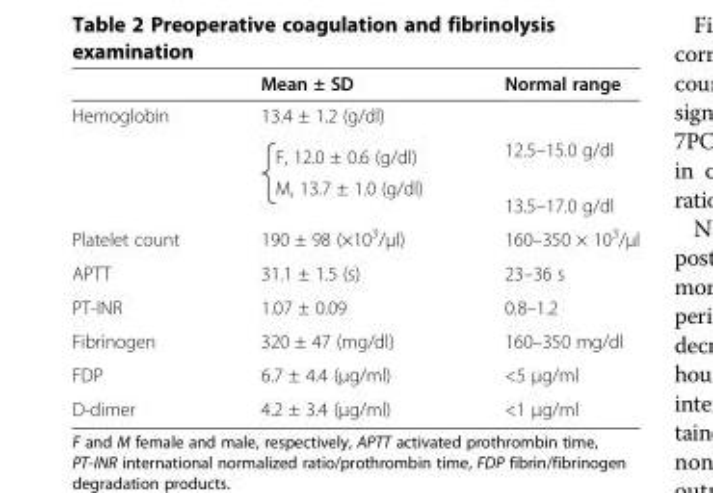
<table><thead><tr><td></td><td>Mean ± SD</td><td>Normal range</td></tr></thead><tbody><tr><td rowspan="3">Hemoglobin</td><td>13.4 ± 1.2 (g/dl)</td><td></td></tr><tr><td>F, 12.0 ± 0.6 (g/dl)</td><td>12.5–15.0 g/dl</td></tr><tr><td>M, 13.7 ± 1.0 (g/dl)</td><td>13.5–17.0 g/dl</td></tr><tr><td>Platelet count</td><td>190 ± 98 (×10<sup>3</sup>/μl)</td><td>160–350 × 10<sup>3</sup>/μl</td></tr><tr><td>APTT</td><td>31.1 ± 1.5 (s)</td><td>23–36 s</td></tr><tr><td>PT-INR</td><td>1.07 ± 0.09</td><td>0.8–1.2</td></tr><tr><td>Fibrinogen</td><td>320 ± 47 (mg/dl)</td><td>160–350 mg/dl</td></tr><tr><td>FDP</td><td>6.7 ± 4.4 (μg/ml)</td><td>&lt;5 μg/ml</td></tr><tr><td>D-dimer</td><td>4.2 ± 3.4 (μg/ml)</td><td>&lt;1 μg/ml</td></tr></tbody></table>